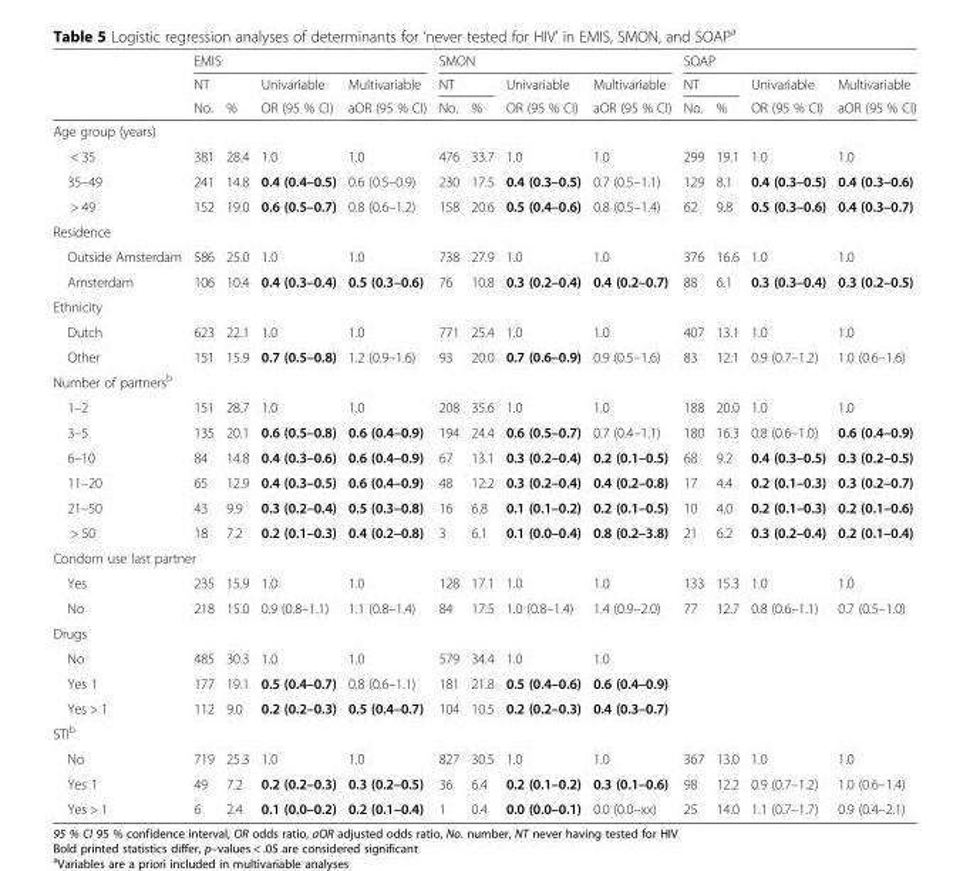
<table><thead><tr><td rowspan="3"></td><td colspan="4">EMIS</td><td colspan="4">SMON</td><td colspan="4">SOAP</td></tr><tr><td rowspan="2">NT No.</td><td rowspan="2">%</td><td rowspan="2">Univariable OR (95 % CI)</td><td rowspan="2">Multivariable aOR (95 % CI)</td><td colspan="2">NT</td><td rowspan="2">Univariable OR (95 % CI)</td><td rowspan="2">Multivariable aOR (95 % CI)</td><td colspan="2">NT</td><td rowspan="2">Univariable OR (95 % CI)</td><td rowspan="2">Multivariable aOR (95 % CI)</td></tr><tr><td>No.</td><td>%</td><td>No.</td><td>%</td></tr></thead><tbody><tr><td colspan="13">Age group (years)</td></tr><tr><td>&lt; 35</td><td>381</td><td>28.4</td><td>1.0</td><td>1.0</td><td>476</td><td>33.7</td><td>1.0</td><td>1.0</td><td>299</td><td>19.1</td><td>1.0</td><td>1.0</td></tr><tr><td>35–49</td><td>241</td><td>14.8</td><td>0.4 (0.4–0.5)</td><td>0.6 (0.5–0.9)</td><td>230</td><td>17.5</td><td>0.4 (0.3–0.5)</td><td>0.7 (0.5–1.1)</td><td>129</td><td>8.1</td><td>0.4 (0.3–0.5)</td><td>0.4 (0.3–0.6)</td></tr><tr><td>&gt; 49</td><td>152</td><td>19.0</td><td>0.6 (0.5–0.7)</td><td>0.8 (0.6–1.2)</td><td>158</td><td>20.6</td><td>0.5 (0.4–0.6)</td><td>0.8 (0.5–1.4)</td><td>62</td><td>9.8</td><td>0.5 (0.3–0.6)</td><td>0.4 (0.3–0.7)</td></tr><tr><td colspan="13">Residence</td></tr><tr><td>Outside Amsterdam</td><td>586</td><td>25.0</td><td>1.0</td><td>1.0</td><td>738</td><td>27.9</td><td>1.0</td><td>1.0</td><td>376</td><td>16.6</td><td>1.0</td><td>1.0</td></tr><tr><td>Amsterdam</td><td>106</td><td>10.4</td><td>0.4 (0.3–0.4)</td><td>0.5 (0.3–0.6)</td><td>76</td><td>10.8</td><td>0.3 (0.2–0.4)</td><td>0.4 (0.2–0.7)</td><td>88</td><td>6.1</td><td>0.3 (0.3–0.4)</td><td>0.3 (0.2–0.5)</td></tr><tr><td colspan="13">Ethnicity</td></tr><tr><td>Dutch</td><td>623</td><td>22.1</td><td>1.0</td><td>1.0</td><td>771</td><td>25.4</td><td>1.0</td><td>1.0</td><td>407</td><td>13.1</td><td>1.0</td><td>1.0</td></tr><tr><td>Other</td><td>151</td><td>15.9</td><td>0.7 (0.5–0.8)</td><td>1.2 (0.9–1.6)</td><td>93</td><td>20.0</td><td>0.7 (0.6–0.9)</td><td>0.9 (0.5–1.6)</td><td>83</td><td>12.1</td><td>0.9 (0.7–1.2)</td><td>1.0 (0.6–1.6)</td></tr><tr><td colspan="13">Number of partners<sup>b</sup></td></tr><tr><td>1–2</td><td>151</td><td>28.7</td><td>1.0</td><td>1.0</td><td>208</td><td>35.6</td><td>1.0</td><td>1.0</td><td>188</td><td>20.0</td><td>1.0</td><td>1.0</td></tr><tr><td>3–5</td><td>135</td><td>20.1</td><td>0.6 (0.5–0.8)</td><td>0.6 (0.4–0.9)</td><td>194</td><td>24.4</td><td>0.6 (0.5–0.7)</td><td>0.7 (0.4–1.1)</td><td>180</td><td>16.3</td><td>0.8 (0.6–1.0)</td><td>0.6 (0.4–0.9)</td></tr><tr><td>6–10</td><td>84</td><td>14.8</td><td>0.4 (0.3–0.6)</td><td>0.6 (0.4–0.9)</td><td>67</td><td>13.1</td><td>0.3 (0.2–0.4)</td><td>0.2 (0.1–0.5)</td><td>68</td><td>9.2</td><td>0.4 (0.3–0.5)</td><td>0.3 (0.2–0.5)</td></tr><tr><td>11–20</td><td>65</td><td>12.9</td><td>0.4 (0.3–0.5)</td><td>0.6 (0.4–0.9)</td><td>48</td><td>12.2</td><td>0.3 (0.2–0.4)</td><td>0.4 (0.2–0.8)</td><td>17</td><td>4.4</td><td>0.2 (0.1–0.3)</td><td>0.3 (0.2–0.7)</td></tr><tr><td>21–50</td><td>43</td><td>9.9</td><td>0.3 (0.2–0.4)</td><td>0.5 (0.3–0.8)</td><td>16</td><td>6.8</td><td>0.1 (0.1–0.2)</td><td>0.2 (0.1–0.5)</td><td>10</td><td>4.0</td><td>0.2 (0.1–0.3)</td><td>0.2 (0.1–0.6)</td></tr><tr><td>&gt; 50</td><td>18</td><td>7.2</td><td>0.2 (0.1–0.3)</td><td>0.4 (0.2–0.8)</td><td>3</td><td>6.1</td><td>0.1 (0.0–0.4)</td><td>0.8 (0.2–3.8)</td><td>21</td><td>6.2</td><td>0.3 (0.2–0.4)</td><td>0.2 (0.1–0.4)</td></tr><tr><td colspan="13">Condom use last partner</td></tr><tr><td>Yes</td><td>235</td><td>15.9</td><td>1.0</td><td>1.0</td><td>128</td><td>17.1</td><td>1.0</td><td>1.0</td><td>133</td><td>15.3</td><td>1.0</td><td>1.0</td></tr><tr><td>No</td><td>218</td><td>15.0</td><td>0.9 (0.8–1.1)</td><td>1.1 (0.8–1.4)</td><td>84</td><td>17.5</td><td>1.0 (0.8–1.4)</td><td>1.4 (0.9–2.0)</td><td>77</td><td>12.7</td><td>0.8 (0.6–1.1)</td><td>0.7 (0.5–1.0)</td></tr><tr><td colspan="13">Drugs</td></tr><tr><td>No</td><td>485</td><td>30.3</td><td>1.0</td><td>1.0</td><td>579</td><td>34.4</td><td>1.0</td><td>1.0</td><td></td><td></td><td></td><td></td></tr><tr><td>Yes 1</td><td>177</td><td>19.1</td><td>0.5 (0.4–0.7)</td><td>0.8 (0.6–1.1)</td><td>181</td><td>21.8</td><td>0.5 (0.4–0.6)</td><td>0.6 (0.4–0.9)</td><td></td><td></td><td></td><td></td></tr><tr><td>Yes &gt; 1</td><td>112</td><td>9.0</td><td>0.2 (0.2–0.3)</td><td>0.5 (0.4–0.7)</td><td>104</td><td>10.5</td><td>0.2 (0.2–0.3)</td><td>0.4 (0.3–0.7)</td><td></td><td></td><td></td><td></td></tr><tr><td colspan="13">STI<sup>b</sup></td></tr><tr><td>No</td><td>719</td><td>25.3</td><td>1.0</td><td>1.0</td><td>827</td><td>30.5</td><td>1.0</td><td>1.0</td><td>367</td><td>13.0</td><td>1.0</td><td>1.0</td></tr><tr><td>Yes 1</td><td>49</td><td>7.2</td><td>0.2 (0.2–0.3)</td><td>0.3 (0.2–0.5)</td><td>36</td><td>6.4</td><td>0.2 (0.1–0.2)</td><td>0.3 (0.1–0.6)</td><td>98</td><td>12.2</td><td>0.9 (0.7–1.2)</td><td>1.0 (0.6–1.4)</td></tr><tr><td>Yes &gt; 1</td><td>6</td><td>2.4</td><td>0.1 (0.0–0.2)</td><td>0.2 (0.1–0.4)</td><td>1</td><td>0.4</td><td>0.0 (0.0–0.1)</td><td>0.0 (0.0–xx)</td><td>25</td><td>14.0</td><td>1.1 (0.7–1.7)</td><td>0.9 (0.4–2.1)</td></tr></tbody></table>